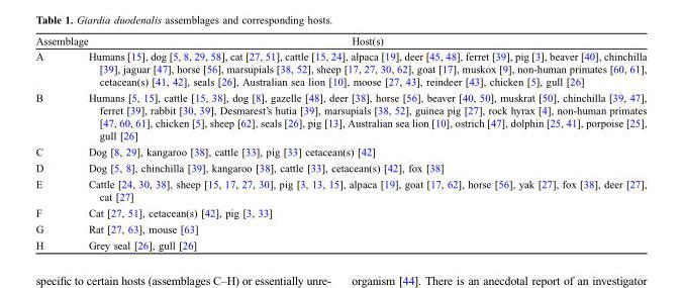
<table><thead><tr><td>Assemblage</td><td>Host(s)</td></tr></thead><tbody><tr><td>A</td><td>Humans [15], dog [5, 8, 29, 58], cat [27, 51], cattle [15, 24], alpaca [19], deer [45, 48], ferret [39], pig [3], beaver [40], chinchilla [39], jaguar [47], horse [56], marsupials [38, 52], sheep [17, 27, 30, 62], goat [17], muskox [9], non-human primates [60, 61], cetacean(s) [41, 42], seals [26], Australian sea lion [10], moose [27, 43], reindeer [43], chicken [5], gull [26]</td></tr><tr><td>B</td><td>Humans [5, 15], cattle [15, 38], dog [8], gazelle [48], deer [38], horse [56], beaver [40, 50], muskrat [50], chinchilla [39, 47], ferret [39], rabbit [30, 39], Desmarest’s hutia [39], marsupials [38, 52], guinea pig [27], rock hyrax [4], non-human primates [47, 60, 61], chicken [5], sheep [62], seals [26], pig [13], Australian sea lion [10], ostrich [47], dolphin [25, 41], porpoise [25], gull [26]</td></tr><tr><td>C</td><td>Dog [8, 29], kangaroo [38], cattle [33], pig [33] cetacean(s) [42]</td></tr><tr><td>D</td><td>Dog [5, 8], chinchilla [39], kangaroo [38], cattle [33], cetacean(s) [42], fox [38]</td></tr><tr><td>E</td><td>Cattle [24, 30, 38], sheep [15, 17, 27, 30], pig [3, 13, 15], alpaca [19], goat [17, 62], horse [56], yak [27], fox [38], deer [27], cat [27]</td></tr><tr><td>F</td><td>Cat [27, 51], cetacean(s) [42], pig [3, 33]</td></tr><tr><td>G</td><td>Rat [27, 63], mouse [63]</td></tr><tr><td>H</td><td>Grey seal [26], gull [26]</td></tr></tbody></table>